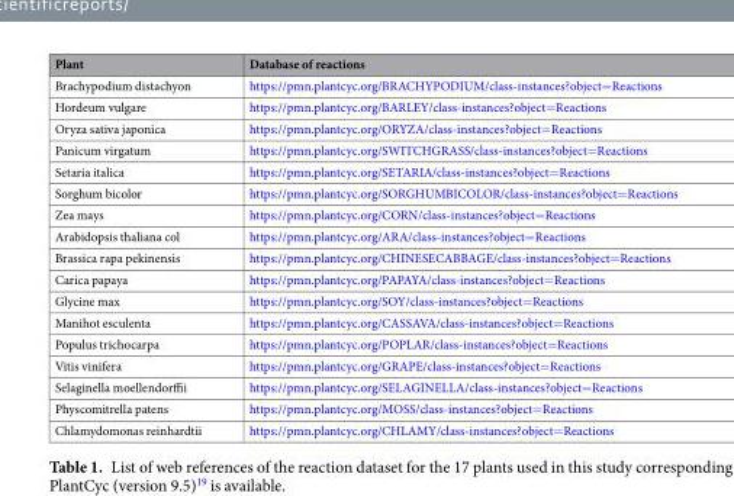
<table><thead><tr><td>Plant</td><td>Database of reactions</td></tr></thead><tbody><tr><td>Brachypodium distachyon</td><td>https://pmn.plantcyc.org/BRACHYPODIUM/class-instances?object=Reactions</td></tr><tr><td>Hordeum vulgare</td><td>https://pmn.plantcyc.org/BARLEY/class-instances?object=Reactions</td></tr><tr><td>Oryza sativa japonica</td><td>https://pmn.plantcyc.org/ORYZA/class-instances?object=Reactions</td></tr><tr><td>Panicum virgatum</td><td>https://pmn.plantcyc.org/SWITCHGRASS/class-instances?object=Reactions</td></tr><tr><td>Setaria italica</td><td>https://pmn.plantcyc.org/SETARIA/class-instances?object=Reactions</td></tr><tr><td>Sorghum bicolor</td><td>https://pmn.plantcyc.org/SORGHUMBICOLOR/class-instances?object=Reactions</td></tr><tr><td>Zea mays</td><td>https://pmn.plantcyc.org/CORN/class-instances?object=Reactions</td></tr><tr><td>Arabidopsis thaliana col</td><td>https://pmn.plantcyc.org/ARA/class-instances?object=Reactions</td></tr><tr><td>Brassica rapa pekinensis</td><td>https://pmn.plantcyc.org/CHINESECABBAGE/class-instances?object=Reactions</td></tr><tr><td>Carica papaya</td><td>https://pmn.plantcyc.org/PAPAYA/class-instances?object=Reactions</td></tr><tr><td>Glycine max</td><td>https://pmn.plantcyc.org/SOY/class-instances?object=Reactions</td></tr><tr><td>Manihot esculenta</td><td>https://pmn.plantcyc.org/CASSAVA/class-instances?object=Reactions</td></tr><tr><td>Populus trichocarpa</td><td>https://pmn.plantcyc.org/POPLAR/class-instances?object=Reactions</td></tr><tr><td>Vitis vinifera</td><td>https://pmn.plantcyc.org/GRAPE/class-instances?object=Reactions</td></tr><tr><td>Selaginella moellendorffii</td><td>https://pmn.plantcyc.org/SELAGINELLA/class-instances?object=Reactions</td></tr><tr><td>Physcomitrella patens</td><td>https://pmn.plantcyc.org/MOSS/class-instances?object=Reactions</td></tr><tr><td>Chlamydomonas reinhardtii</td><td>https://pmn.plantcyc.org/CHLAMY/class-instances?object=Reactions</td></tr></tbody></table>